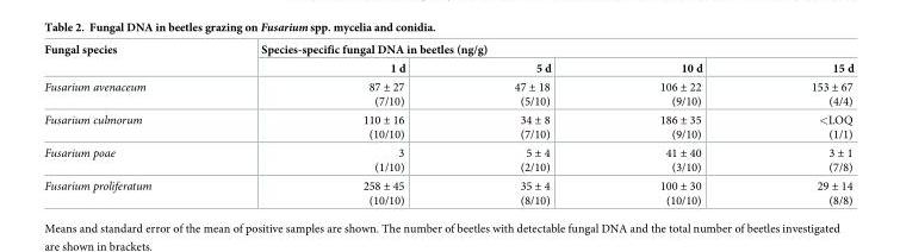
<table><thead><tr><td rowspan="2">Fungal species</td><td colspan="4">Species-specific fungal DNA in beetles (ng/g)</td></tr><tr><td>1 d</td><td>5 d</td><td>10 d</td><td>15 d</td></tr></thead><tbody><tr><td>Fusarium avenaceum</td><td>87 ± 27 (7/10)</td><td>47 ± 18 (5/10)</td><td>106 ± 22 (9/10)</td><td>153 ± 67 (4/4)</td></tr><tr><td>Fusarium culmorum</td><td>110 ± 16 (10/10)</td><td>34 ± 8 (7/10)</td><td>186 ± 35 (9/10)</td><td>&lt;LOQ (1/1)</td></tr><tr><td>Fusarium poae</td><td>3 (1/10)</td><td>5 ± 4 (2/10)</td><td>41 ± 40 (3/10)</td><td>3 ± 1 (7/8)</td></tr><tr><td>Fusarium proliferatum</td><td>258 ± 45 (10/10)</td><td>35 ± 4 (8/10)</td><td>100 ± 30 (10/10)</td><td>29 ± 14 (8/8)</td></tr></tbody></table>